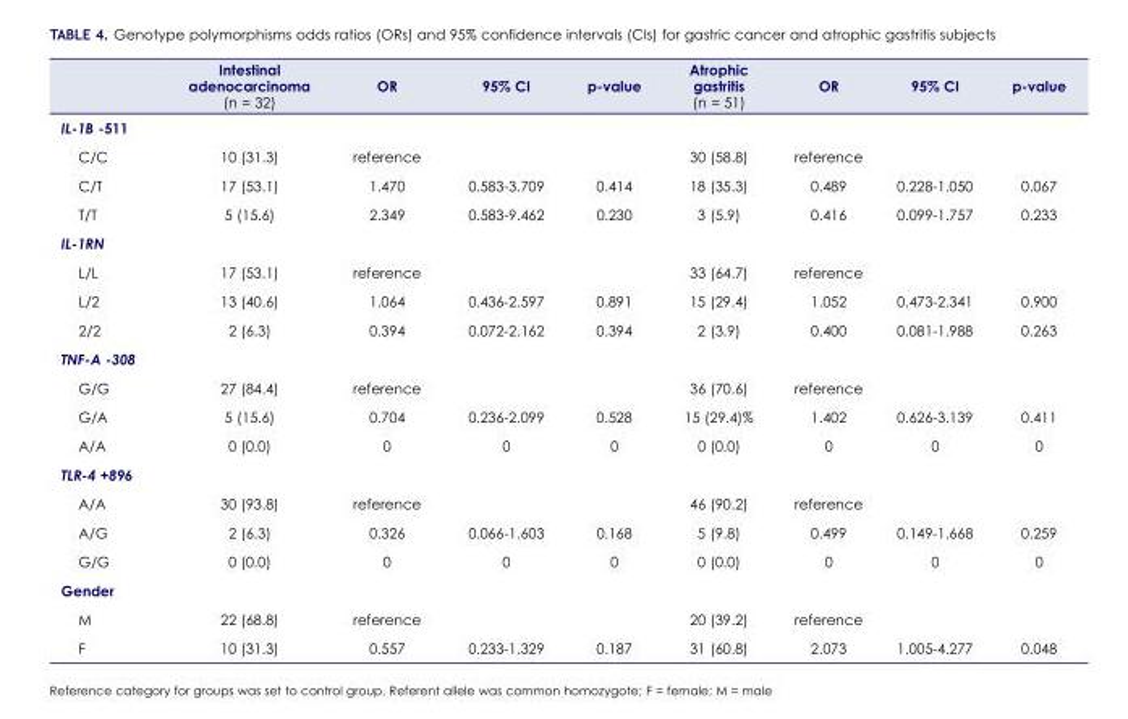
<table><thead><tr><td></td><td>Intestinal adenocarcinoma (n = 32)</td><td>OR</td><td>95% CI</td><td>p-value</td><td>Atrophic gastritis (n = 51)</td><td>OR</td><td>95% CI</td><td>p-value</td></tr></thead><tbody><tr><td colspan="9">IL-1B -511</td></tr><tr><td>C/C</td><td>10 (31.3)</td><td>reference</td><td></td><td></td><td>30 (58.8)</td><td>reference</td><td></td><td></td></tr><tr><td>C/T</td><td>17 (53.1)</td><td>1.470</td><td>0.583-3.709</td><td>0.414</td><td>18 (35.3)</td><td>0.489</td><td>0.228-1.050</td><td>0.067</td></tr><tr><td>T/T</td><td>5 (15.6)</td><td>2.349</td><td>0.583-9.462</td><td>0.230</td><td>3 (5.9)</td><td>0.416</td><td>0.099-1.757</td><td>0.233</td></tr><tr><td colspan="9">IL-1RN</td></tr><tr><td>L/L</td><td>17 (53.1)</td><td>reference</td><td></td><td></td><td>33 (64.7)</td><td>reference</td><td></td><td></td></tr><tr><td>L/2</td><td>13 (40.6)</td><td>1.064</td><td>0.436-2.597</td><td>0.891</td><td>15 (29.4)</td><td>1.052</td><td>0.473-2.341</td><td>0.900</td></tr><tr><td>2/2</td><td>2 (6.3)</td><td>0.394</td><td>0.072-2.162</td><td>0.394</td><td>2 (3.9)</td><td>0.400</td><td>0.081-1.988</td><td>0.263</td></tr><tr><td colspan="9">TNF-A -308</td></tr><tr><td>G/G</td><td>27 (84.4)</td><td>reference</td><td></td><td></td><td>36 (70.6)</td><td>reference</td><td></td><td></td></tr><tr><td>G/A</td><td>5 (15.6)</td><td>0.704</td><td>0.236-2.099</td><td>0.528</td><td>15 (29.4)%</td><td>1.402</td><td>0.626-3.139</td><td>0.411</td></tr><tr><td>A/A</td><td>0 (0.0)</td><td>0</td><td>0</td><td>0</td><td>0 (0.0)</td><td>0</td><td>0</td><td>0</td></tr><tr><td colspan="9">TLR-4 +896</td></tr><tr><td>A/A</td><td>30 (93.8)</td><td>reference</td><td></td><td></td><td>46 (90.2)</td><td>reference</td><td></td><td></td></tr><tr><td>A/G</td><td>2 (6.3)</td><td>0.326</td><td>0.066-1.603</td><td>0.168</td><td>5 (9.8)</td><td>0.499</td><td>0.149-1.668</td><td>0.259</td></tr><tr><td>G/G</td><td>0 (0.0)</td><td>0</td><td>0</td><td>0</td><td>0 (0.0)</td><td>0</td><td>0</td><td>0</td></tr><tr><td colspan="9">Gender</td></tr><tr><td>M</td><td>22 (68.8)</td><td>reference</td><td></td><td></td><td>20 (39.2)</td><td>reference</td><td></td><td></td></tr><tr><td>F</td><td>10 (31.3)</td><td>0.557</td><td>0.233-1.329</td><td>0.187</td><td>31 (60.8)</td><td>2.073</td><td>1.005-4.277</td><td>0.048</td></tr></tbody></table>